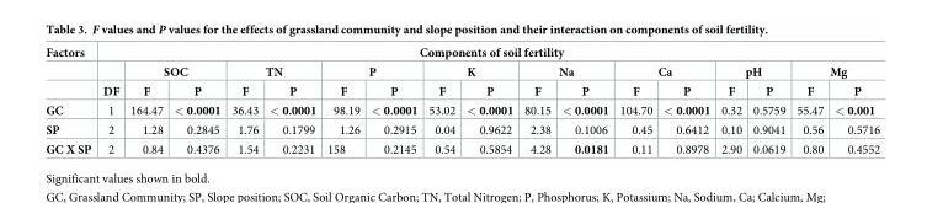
<table><thead><tr><td rowspan="3">Factors</td><td colspan="17">Components of soil fertility</td></tr><tr><td rowspan="2">DF</td><td colspan="2">SOC</td><td colspan="2">TN</td><td colspan="2">P</td><td colspan="2">K</td><td colspan="2">Na</td><td colspan="2">Ca</td><td colspan="2">pH</td><td colspan="2">Mg</td></tr><tr><td>F</td><td>P</td><td>F</td><td>P</td><td>F</td><td>P</td><td>F</td><td>P</td><td>F</td><td>P</td><td>F</td><td>P</td><td>F</td><td>P</td><td>F</td><td>P</td></tr></thead><tbody><tr><td>GC</td><td>1</td><td>164.47</td><td>&lt; 0.0001</td><td>36.43</td><td>&lt; 0.0001</td><td>98.19</td><td>&lt; 0.0001</td><td>53.02</td><td>&lt; 0.0001</td><td>80.15</td><td>&lt; 0.0001</td><td>104.70</td><td>&lt; 0.0001</td><td>0.32</td><td>0.5759</td><td>55.47</td><td>&lt; 0.001</td></tr><tr><td>SP</td><td>2</td><td>1.28</td><td>0.2845</td><td>1.76</td><td>0.1799</td><td>1.26</td><td>0.2915</td><td>0.04</td><td>0.9622</td><td>2.38</td><td>0.1006</td><td>0.45</td><td>0.6412</td><td>0.10</td><td>0.9041</td><td>0.56</td><td>0.5716</td></tr><tr><td>GC X SP</td><td>2</td><td>0.84</td><td>0.4376</td><td>1.54</td><td>0.2231</td><td>158</td><td>0.2145</td><td>0.54</td><td>0.5854</td><td>4.28</td><td>0.0181</td><td>0.11</td><td>0.8978</td><td>2.90</td><td>0.0619</td><td>0.80</td><td>0.4552</td></tr></tbody></table>